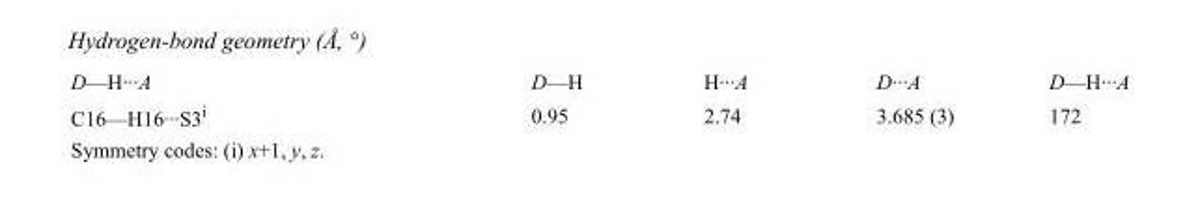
<table><tbody><tr><td>D—H···A</td><td>D—H</td><td>H···A</td><td>D···A</td><td>D—H···A</td></tr><tr><td>C16—H16···S3<sup>i</sup></td><td>0.95</td><td>2.74</td><td>3.685 (3)</td><td>172</td></tr></tbody></table>